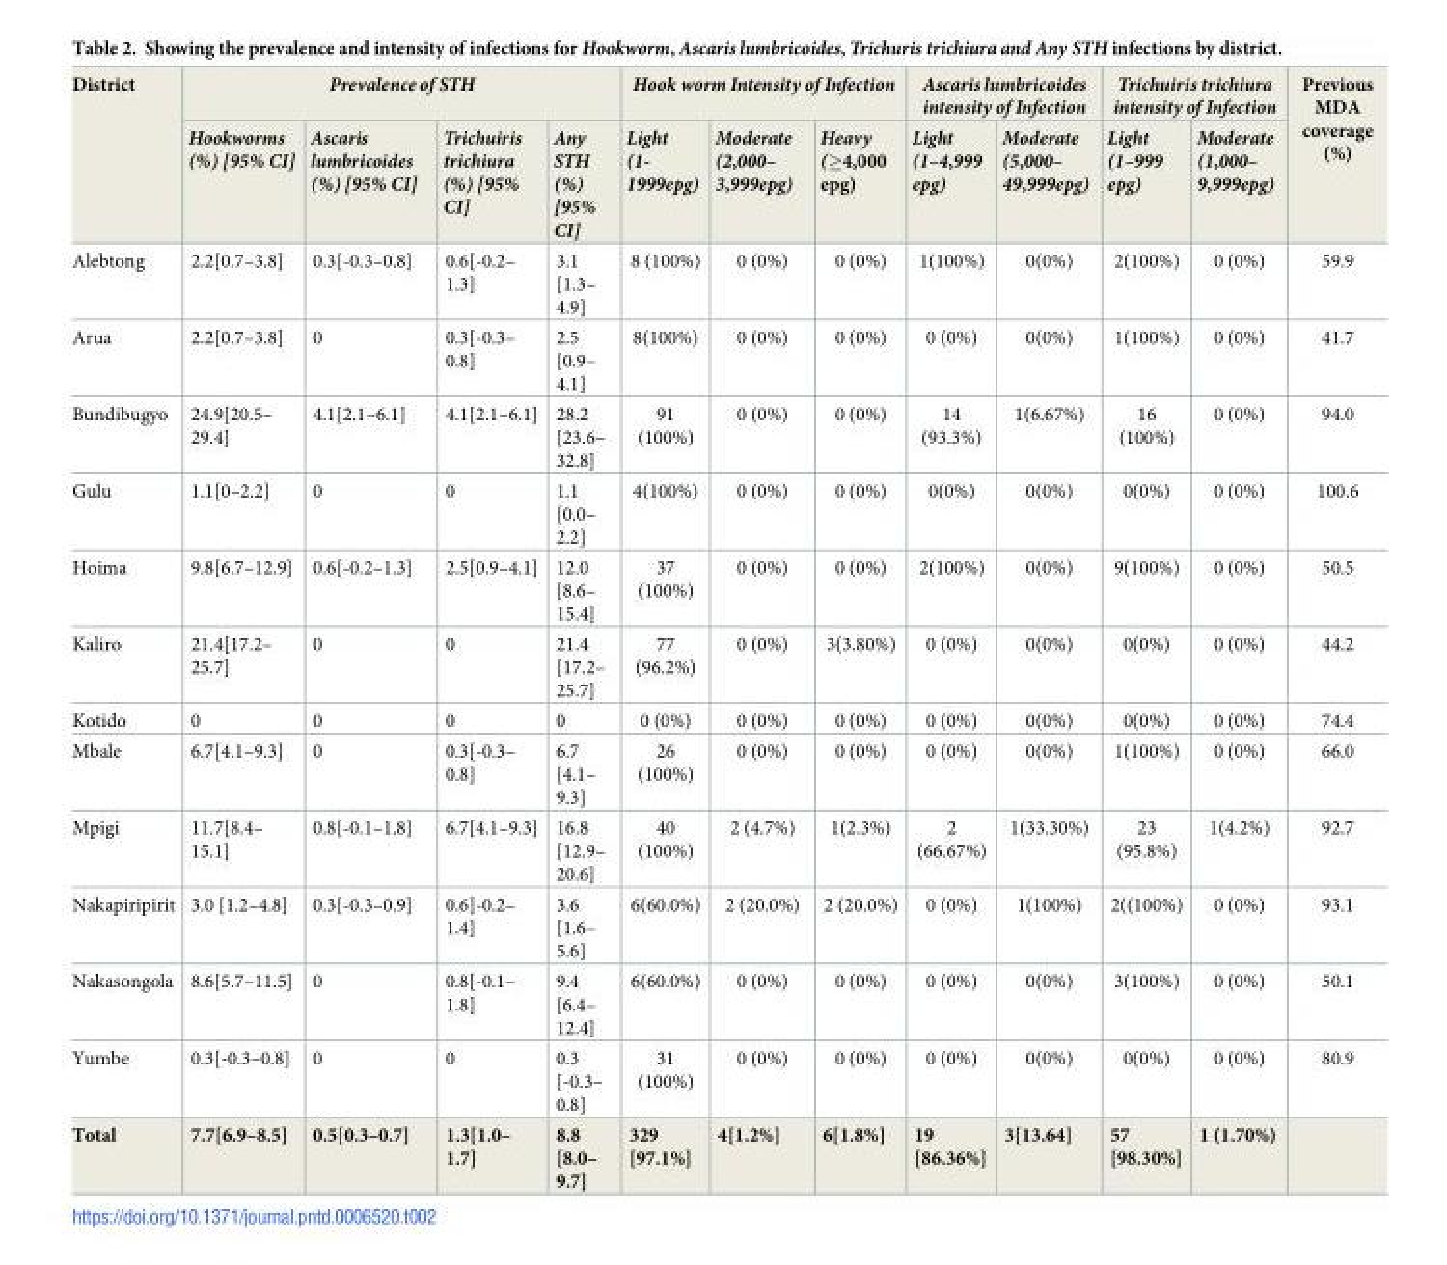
<table><thead><tr><td rowspan="2">District</td><td colspan="4">Prevalence of STH</td><td colspan="3">Hook worm Intensity of Infection</td><td colspan="2">Ascaris lumbricoides intensity of Infection</td><td colspan="2">Trichuiris trichiura intensity of Infection</td><td rowspan="2">Previous MDA coverage (%)</td></tr><tr><td>Hookworms (%) [95% CI]</td><td>Ascaris lumbricoides (%) [95% CI]</td><td>Trichuiris trichiura (%) [95% CI]</td><td>Any STH (%) [95% CI]</td><td>Light (1- 1999epg)</td><td>Moderate (2,000– 3,999epg)</td><td>Heavy (≥4,000 epg)</td><td>Light (1–4,999 epg)</td><td>Moderate (5,000– 49,999epg)</td><td>Light (1–999 epg)</td><td>Moderate (1,000– 9,999epg)</td></tr></thead><tbody><tr><td>Alebtong</td><td>2.2[0.7–3.8]</td><td>0.3[-0.3–0.8]</td><td>0.6[-0.2– 1.3]</td><td>3.1 [1.3– 4.9]</td><td>8 (100%)</td><td>0 (0%)</td><td>0 (0%)</td><td>1(100%)</td><td>0(0%)</td><td>2(100%)</td><td>0 (0%)</td><td>59.9</td></tr><tr><td>Arua</td><td>2.2[0.7–3.8]</td><td>0</td><td>0.3[-0.3– 0.8]</td><td>2.5 [0.9– 4.1]</td><td>8(100%)</td><td>0 (0%)</td><td>0 (0%)</td><td>0 (0%)</td><td>0(0%)</td><td>1(100%)</td><td>0 (0%)</td><td>41.7</td></tr><tr><td>Bundibugyo</td><td>24.9[20.5– 29.4]</td><td>4.1[2.1–6.1]</td><td>4.1[2.1–6.1]</td><td>28.2 [23.6– 32.8]</td><td>91 (100%)</td><td>0 (0%)</td><td>0 (0%)</td><td>14 (93.3%)</td><td>1(6.67%)</td><td>16 (100%)</td><td>0 (0%)</td><td>94.0</td></tr><tr><td>Gulu</td><td>1.1[0–2.2]</td><td>0</td><td>0</td><td>1.1 [0.0– 2.2]</td><td>4(100%)</td><td>0 (0%)</td><td>0 (0%)</td><td>0(0%)</td><td>0(0%)</td><td>0(0%)</td><td>0 (0%)</td><td>100.6</td></tr><tr><td>Hoima</td><td>9.8[6.7–12.9]</td><td>0.6[-0.2–1.3]</td><td>2.5[0.9–4.1]</td><td>12.0 [8.6– 15.4]</td><td>37 (100%)</td><td>0 (0%)</td><td>0 (0%)</td><td>2(100%)</td><td>0(0%)</td><td>9(100%)</td><td>0 (0%)</td><td>50.5</td></tr><tr><td>Kaliro</td><td>21.4[17.2– 25.7]</td><td>0</td><td>0</td><td>21.4 [17.2– 25.7]</td><td>77 (96.2%)</td><td>0 (0%)</td><td>3(3.80%)</td><td>0 (0%)</td><td>0(0%)</td><td>0(0%)</td><td>0 (0%)</td><td>44.2</td></tr><tr><td>Kotido</td><td>0</td><td>0</td><td>0</td><td>0</td><td>0 (0%)</td><td>0 (0%)</td><td>0 (0%)</td><td>0 (0%)</td><td>0(0%)</td><td>0(0%)</td><td>0 (0%)</td><td>74.4</td></tr><tr><td>Mbale</td><td>6.7[4.1–9.3]</td><td>0</td><td>0.3[-0.3– 0.8]</td><td>6.7 [4.1– 9.3]</td><td>26 (100%)</td><td>0 (0%)</td><td>0 (0%)</td><td>0 (0%)</td><td>0(0%)</td><td>1(100%)</td><td>0 (0%)</td><td>66.0</td></tr><tr><td>Mpigi</td><td>11.7[8.4– 15.1]</td><td>0.8[-0.1–1.8]</td><td>6.7[4.1–9.3]</td><td>16.8 [12.9– 20.6]</td><td>40 (100%)</td><td>2 (4.7%)</td><td>1(2.3%)</td><td>2 (66.67%)</td><td>1(33.30%)</td><td>23 (95.8%)</td><td>1(4.2%)</td><td>92.7</td></tr><tr><td>Nakapiripirit</td><td>3.0 [1.2–4.8]</td><td>0.3[-0.3–0.9]</td><td>0.6]-0.2– 1.4]</td><td>3.6 [1.6– 5.6]</td><td>6(60.0%)</td><td>2 (20.0%)</td><td>2 (20.0%)</td><td>0 (0%)</td><td>1(100%)</td><td>2((100%)</td><td>0 (0%)</td><td>93.1</td></tr><tr><td>Nakasongola</td><td>8.6[5.7–11.5]</td><td>0</td><td>0.8[-0.1– 1.8]</td><td>9.4 [6.4– 12.4]</td><td>6(60.0%)</td><td>0 (0%)</td><td>0 (0%)</td><td>0 (0%)</td><td>0(0%)</td><td>3(100%)</td><td>0 (0%)</td><td>50.1</td></tr><tr><td>Yumbe</td><td>0.3[-0.3–0.8]</td><td>0</td><td>0</td><td>0.3 [-0.3– 0.8]</td><td>31 (100%)</td><td>0 (0%)</td><td>0 (0%)</td><td>0 (0%)</td><td>0(0%)</td><td>0(0%)</td><td>0 (0%)</td><td>80.9</td></tr><tr><td>Total</td><td>7.7[6.9–8.5]</td><td>0.5[0.3–0.7]</td><td>1.3[1.0– 1.7]</td><td>8.8 [8.0– 9.7]</td><td>329 [97.1%]</td><td>4[1.2%]</td><td>6[1.8%]</td><td>19 [86.36%]</td><td>3[13.64]</td><td>57 [98.30%]</td><td>1 (1.70%)</td><td></td></tr></tbody></table>